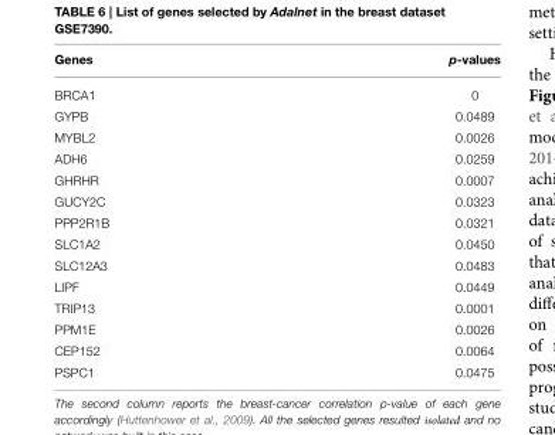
<table><thead><tr><td>Genes</td><td>p-values</td></tr></thead><tbody><tr><td>BRCA1</td><td>0</td></tr><tr><td>GYPB</td><td>0.0489</td></tr><tr><td>MYBL2</td><td>0.0026</td></tr><tr><td>ADH6</td><td>0.0259</td></tr><tr><td>GHRHR</td><td>0.0007</td></tr><tr><td>GUCY2C</td><td>0.0323</td></tr><tr><td>PPP2R1B</td><td>0.0321</td></tr><tr><td>SLC1A2</td><td>0.0450</td></tr><tr><td>SLC12A3</td><td>0.0483</td></tr><tr><td>LIPF</td><td>0.0449</td></tr><tr><td>TRIP13</td><td>0.0001</td></tr><tr><td>PPM1E</td><td>0.0026</td></tr><tr><td>CEP152</td><td>0.0064</td></tr><tr><td>PSPC1</td><td>0.0475</td></tr></tbody></table>